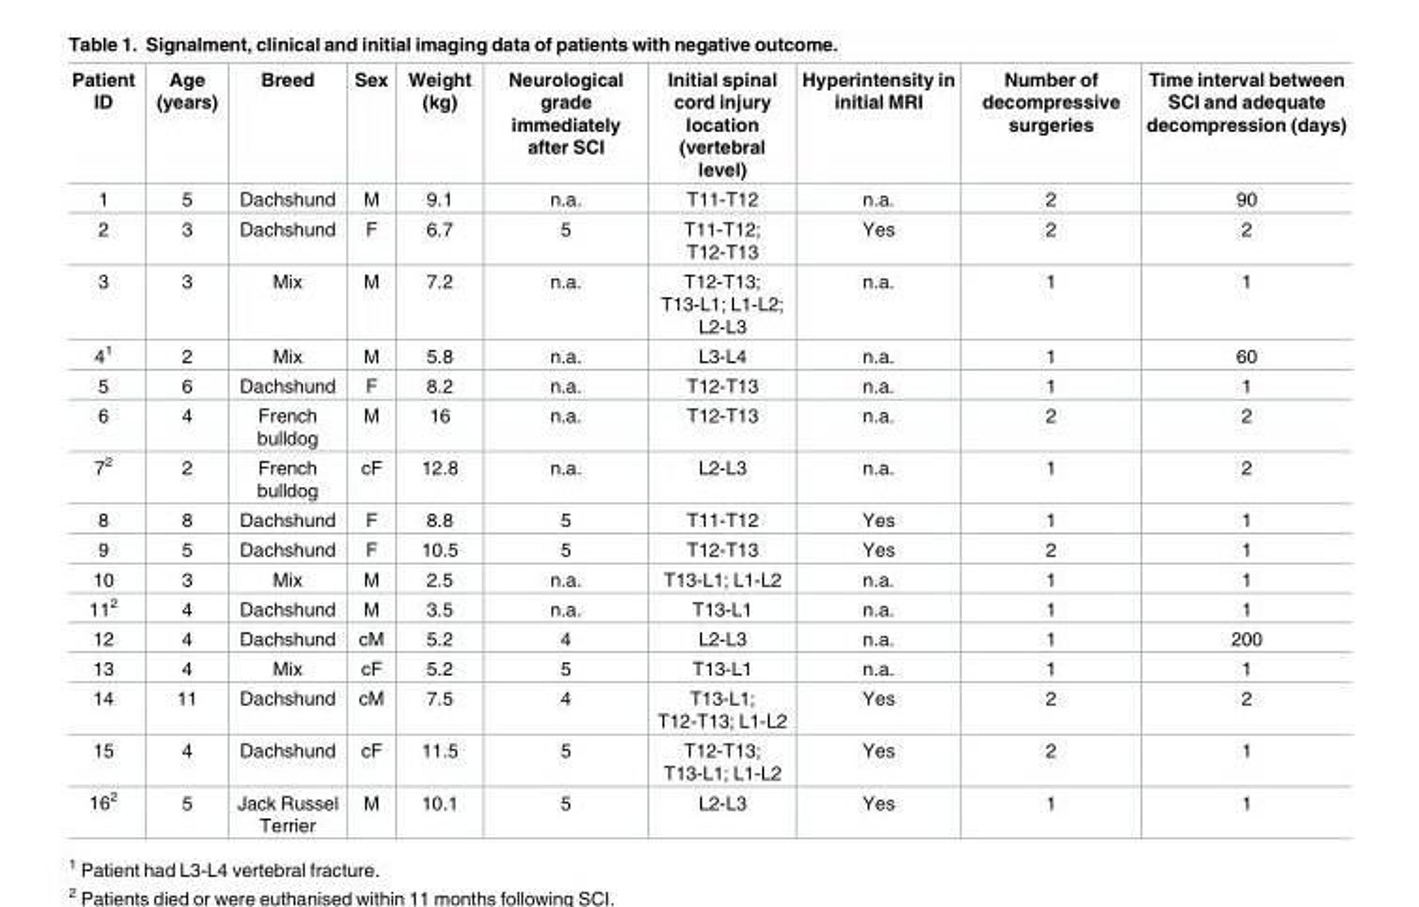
<table><thead><tr><td>Patient ID</td><td>Age (years)</td><td>Breed</td><td>Sex</td><td>Weight (kg)</td><td>Neurological grade immediately after SCI</td><td>Initial spinal cord injury location (vertebral level)</td><td>Hyperintensity in initial MRI</td><td>Number of decompressive surgeries</td><td>Time interval between SCI and adequate decompression (days)</td></tr></thead><tbody><tr><td>1</td><td>5</td><td>Dachshund</td><td>M</td><td>9.1</td><td>n.a.</td><td>T11-T12</td><td>n.a.</td><td>2</td><td>90</td></tr><tr><td>2</td><td>3</td><td>Dachshund</td><td>F</td><td>6.7</td><td>5</td><td>T11-T12; T12-T13</td><td>Yes</td><td>2</td><td>2</td></tr><tr><td>3</td><td>3</td><td>Mix</td><td>M</td><td>7.2</td><td>n.a.</td><td>T12-T13; T13-L1; L1-L2; L2-L3</td><td>n.a.</td><td>1</td><td>1</td></tr><tr><td>4<sup>1</sup></td><td>2</td><td>Mix</td><td>M</td><td>5.8</td><td>n.a.</td><td>L3-L4</td><td>n.a.</td><td>1</td><td>60</td></tr><tr><td>5</td><td>6</td><td>Dachshund</td><td>F</td><td>8.2</td><td>n.a.</td><td>T12-T13</td><td>n.a.</td><td>1</td><td>1</td></tr><tr><td>6</td><td>4</td><td>French bulldog</td><td>M</td><td>16</td><td>n.a.</td><td>T12-T13</td><td>n.a.</td><td>2</td><td>2</td></tr><tr><td>7<sup>2</sup></td><td>2</td><td>French bulldog</td><td>cF</td><td>12.8</td><td>n.a.</td><td>L2-L3</td><td>n.a.</td><td>1</td><td>2</td></tr><tr><td>8</td><td>8</td><td>Dachshund</td><td>F</td><td>8.8</td><td>5</td><td>T11-T12</td><td>Yes</td><td>1</td><td>1</td></tr><tr><td>9</td><td>5</td><td>Dachshund</td><td>F</td><td>10.5</td><td>5</td><td>T12-T13</td><td>Yes</td><td>2</td><td>1</td></tr><tr><td>10</td><td>3</td><td>Mix</td><td>M</td><td>2.5</td><td>n.a.</td><td>T13-L1; L1-L2</td><td>n.a.</td><td>1</td><td>1</td></tr><tr><td>11<sup>2</sup></td><td>4</td><td>Dachshund</td><td>M</td><td>3.5</td><td>n.a.</td><td>T13-L1</td><td>n.a.</td><td>1</td><td>1</td></tr><tr><td>12</td><td>4</td><td>Dachshund</td><td>cM</td><td>5.2</td><td>4</td><td>L2-L3</td><td>n.a.</td><td>1</td><td>200</td></tr><tr><td>13</td><td>4</td><td>Mix</td><td>cF</td><td>5.2</td><td>5</td><td>T13-L1</td><td>n.a.</td><td>1</td><td>1</td></tr><tr><td>14</td><td>11</td><td>Dachshund</td><td>cM</td><td>7.5</td><td>4</td><td>T13-L1; T12-T13; L1-L2</td><td>Yes</td><td>2</td><td>2</td></tr><tr><td>15</td><td>4</td><td>Dachshund</td><td>cF</td><td>11.5</td><td>5</td><td>T12-T13; T13-L1; L1-L2</td><td>Yes</td><td>2</td><td>1</td></tr><tr><td>16<sup>2</sup></td><td>5</td><td>Jack Russel Terrier</td><td>M</td><td>10.1</td><td>5</td><td>L2-L3</td><td>Yes</td><td>1</td><td>1</td></tr></tbody></table>